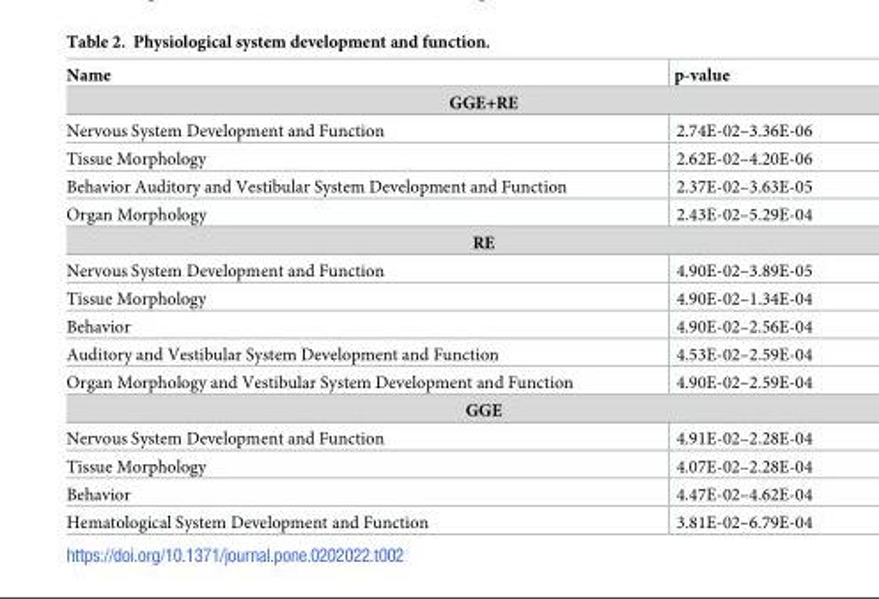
<table><thead><tr><td>Name</td><td>p-value</td></tr></thead><tbody><tr><td colspan="2">GGE+RE</td></tr><tr><td>Nervous System Development and Function</td><td>2.74E-02–3.36E-06</td></tr><tr><td>Tissue Morphology</td><td>2.62E-02–4.20E-06</td></tr><tr><td>Behavior Auditory and Vestibular System Development and Function</td><td>2.37E-02–3.63E-05</td></tr><tr><td>Organ Morphology</td><td>2.43E-02–5.29E-04</td></tr><tr><td colspan="2">RE</td></tr><tr><td>Nervous System Development and Function</td><td>4.90E-02–3.89E-05</td></tr><tr><td>Tissue Morphology</td><td>4.90E-02–1.34E-04</td></tr><tr><td>Behavior</td><td>4.90E-02–2.56E-04</td></tr><tr><td>Auditory and Vestibular System Development and Function</td><td>4.53E-02–2.59E-04</td></tr><tr><td>Organ Morphology and Vestibular System Development and Function</td><td>4.90E-02–2.59E-04</td></tr><tr><td colspan="2">GGE</td></tr><tr><td>Nervous System Development and Function</td><td>4.91E-02–2.28E-04</td></tr><tr><td>Tissue Morphology</td><td>4.07E-02–2.28E-04</td></tr><tr><td>Behavior</td><td>4.47E-02–4.62E-04</td></tr><tr><td>Hematological System Development and Function</td><td>3.81E-02–6.79E-04</td></tr></tbody></table>